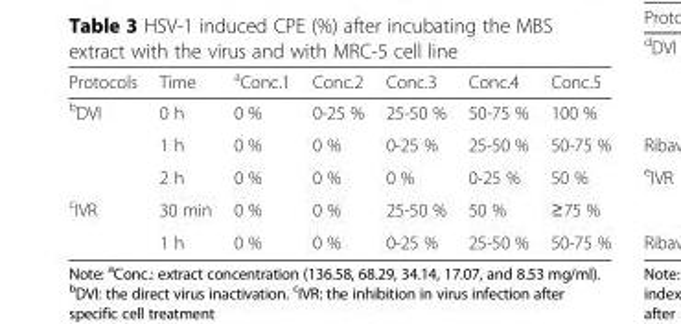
<table><thead><tr><td>Protocols</td><td>Time</td><td><sup>a</sup>Conc.1</td><td>Conc.2</td><td>Conc.3</td><td>Conc.4</td><td>Conc.5</td></tr></thead><tbody><tr><td rowspan="3"><sup>b</sup>DVI</td><td>0 h</td><td>0 %</td><td>0-25 %</td><td>25-50 %</td><td>50-75 %</td><td>100 %</td></tr><tr><td>1 h</td><td>0 %</td><td>0 %</td><td>0-25 %</td><td>25-50 %</td><td>50-75 %</td></tr><tr><td>2 h</td><td>0 %</td><td>0 %</td><td>0 %</td><td>0-25 %</td><td>50 %</td></tr><tr><td rowspan="2"><sup>c</sup>IVR</td><td>30 min</td><td>0 %</td><td>0 %</td><td>25-50 %</td><td>50 %</td><td>≥75 %</td></tr><tr><td>1 h</td><td>0 %</td><td>0 %</td><td>0-25 %</td><td>25-50 %</td><td>50-75 %</td></tr></tbody></table>